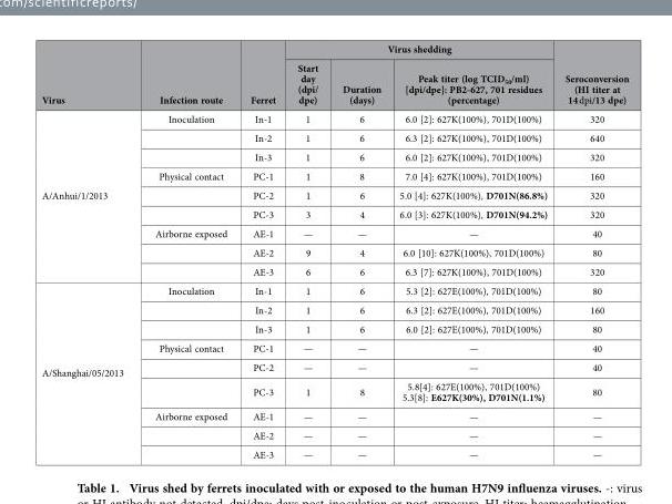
<table><thead><tr><td rowspan="2">Virus</td><td rowspan="2">Infection route</td><td rowspan="2">Ferret</td><td colspan="3">Virus shedding</td><td rowspan="2">Seroconversion (HI titer at 14 dpi/13 dpe)</td></tr><tr><td>Start day (dpi/ dpe)</td><td>Duration (days)</td><td>Peak titer (log TCID<sub>50</sub>/ml) [dpi/dpe]: PB2-627, 701 residues (percentage)</td></tr></thead><tbody><tr><td rowspan="9">A/Anhui/1/2013</td><td>Inoculation</td><td>In-1</td><td>1</td><td>6</td><td>6.0 [2]: 627K(100%), 701D(100%)</td><td>320</td></tr><tr><td></td><td>In-2</td><td>1</td><td>6</td><td>6.3 [2]: 627K(100%), 701D(100%)</td><td>640</td></tr><tr><td></td><td>In-3</td><td>1</td><td>6</td><td>6.0 [2]: 627K(100%), 701D(100%)</td><td>320</td></tr><tr><td>Physical contact</td><td>PC-1</td><td>1</td><td>8</td><td>7.0 [4]: 627K(100%), 701D(100%)</td><td>160</td></tr><tr><td></td><td>PC-2</td><td>1</td><td>6</td><td>5.0 [4]: 627K(100%), D701N(86.8%)</td><td>320</td></tr><tr><td></td><td>PC-3</td><td>3</td><td>4</td><td>6.0 [3]: 627K(100%), D701N(94.2%)</td><td>320</td></tr><tr><td>Airborne exposed</td><td>AE-1</td><td>—</td><td>—</td><td>—</td><td>40</td></tr><tr><td></td><td>AE-2</td><td>9</td><td>4</td><td>6.0 [10]: 627K(100%), 701D(100%)</td><td>80</td></tr><tr><td></td><td>AE-3</td><td>6</td><td>6</td><td>6.3 [7]: 627K(100%), 701D(100%)</td><td>320</td></tr><tr><td rowspan="9">A/Shanghai/05/2013</td><td>Inoculation</td><td>In-1</td><td>1</td><td>6</td><td>5.3 [2]: 627E(100%), 701D(100%)</td><td>80</td></tr><tr><td></td><td>In-2</td><td>1</td><td>6</td><td>6.3 [2]: 627E(100%), 701D(100%)</td><td>160</td></tr><tr><td></td><td>In-3</td><td>1</td><td>6</td><td>6.0 [2]: 627E(100%), 701D(100%)</td><td>80</td></tr><tr><td>Physical contact</td><td>PC-1</td><td>—</td><td>—</td><td>—</td><td>40</td></tr><tr><td></td><td>PC-2</td><td>—</td><td>—</td><td>—</td><td>40</td></tr><tr><td></td><td>PC-3</td><td>1</td><td>8</td><td>5.8[4]: 627E(100%), 701D(100%) 5.3[8]: E627K(30%), D701N(1.1%)</td><td>80</td></tr><tr><td>Airborne exposed</td><td>AE-1</td><td>—</td><td>—</td><td>—</td><td>—</td></tr><tr><td></td><td>AE-2</td><td>—</td><td>—</td><td>—</td><td>—</td></tr><tr><td></td><td>AE-3</td><td>—</td><td>—</td><td>—</td><td>—</td></tr></tbody></table>